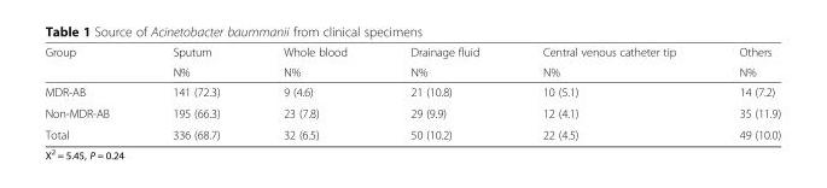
<table><thead><tr><td rowspan="2">Group</td><td rowspan="2">Sputum N%</td><td rowspan="2">Whole blood N%</td><td rowspan="2">Drainage fluid N%</td><td rowspan="2">Central venous catheter tip N%</td><td rowspan="2">Others N%</td></tr><tr></tr></thead><tbody><tr><td>MDR-AB</td><td>141 (72.3)</td><td>9 (4.6)</td><td>21 (10.8)</td><td>10 (5.1)</td><td>14 (7.2)</td></tr><tr><td>Non-MDR-AB</td><td>195 (66.3)</td><td>23 (7.8)</td><td>29 (9.9)</td><td>12 (4.1)</td><td>35 (11.9)</td></tr><tr><td>Total</td><td>336 (68.7)</td><td>32 (6.5)</td><td>50 (10.2)</td><td>22 (4.5)</td><td>49 (10.0)</td></tr></tbody></table>